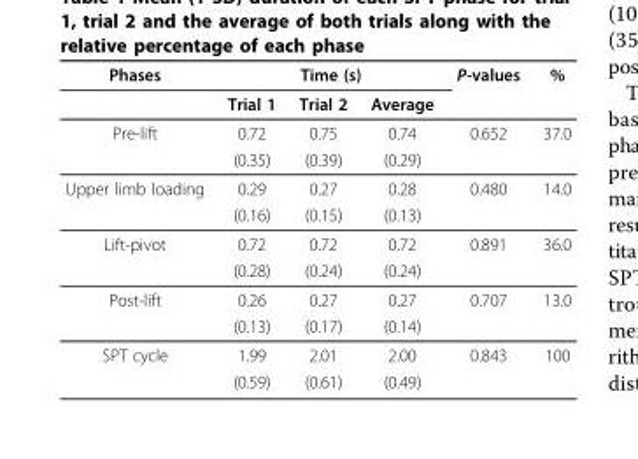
<table><thead><tr><td rowspan="2">Phases</td><td colspan="3">Time (s)</td><td rowspan="2">P-values</td><td rowspan="2">%</td></tr><tr><td>Trial 1</td><td>Trial 2</td><td>Average</td></tr></thead><tbody><tr><td rowspan="2">Pre-lift</td><td>0.72</td><td>0.75</td><td>0.74</td><td>0.652</td><td>37.0</td></tr><tr><td>(0.35)</td><td>(0.39)</td><td>(0.29)</td><td></td><td></td></tr><tr><td rowspan="2">Upper limb loading</td><td>0.29</td><td>0.27</td><td>0.28</td><td>0.480</td><td>14.0</td></tr><tr><td>(0.16)</td><td>(0.15)</td><td>(0.13)</td><td></td><td></td></tr><tr><td rowspan="2">Lift-pivot</td><td>0.72</td><td>0.72</td><td>0.72</td><td>0.891</td><td>36.0</td></tr><tr><td>(0.28)</td><td>(0.24)</td><td>(0.24)</td><td></td><td></td></tr><tr><td rowspan="2">Post-lift</td><td>0.26</td><td>0.27</td><td>0.27</td><td>0.707</td><td>13.0</td></tr><tr><td>(0.13)</td><td>(0.17)</td><td>(0.14)</td><td></td><td></td></tr><tr><td rowspan="2">SPT cycle</td><td>1.99</td><td>2.01</td><td>2.00</td><td>0.843</td><td>100</td></tr><tr><td>(0.59)</td><td>(0.61)</td><td>(0.49)</td><td></td><td></td></tr></tbody></table>